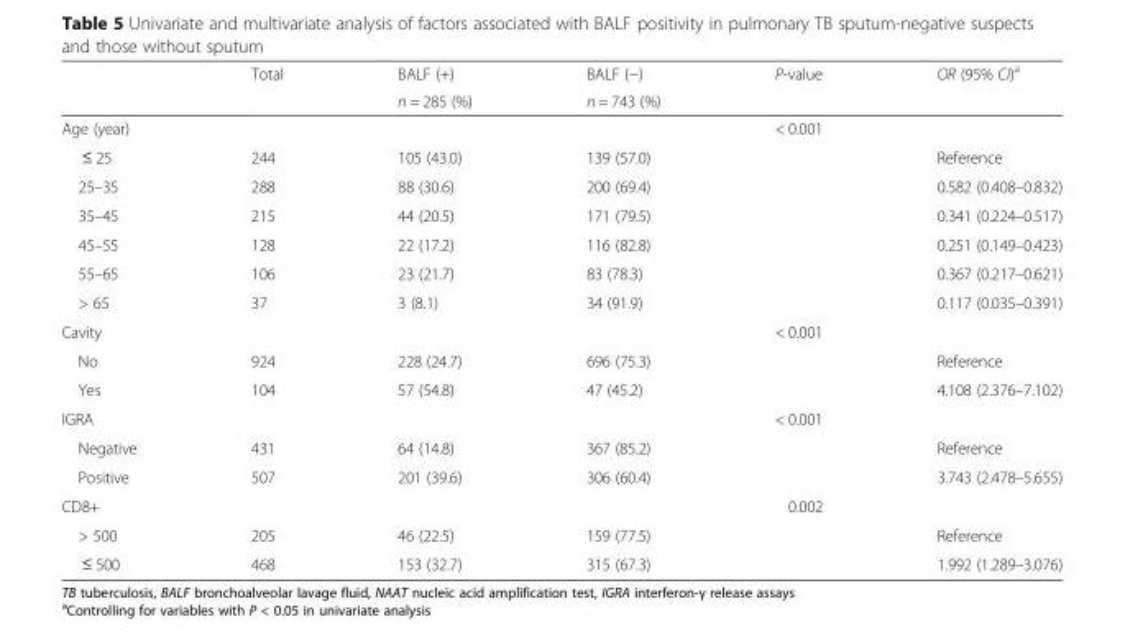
<table><thead><tr><td rowspan="2"></td><td rowspan="2">Total</td><td rowspan="2">BALF (+) n = 285 (%)</td><td rowspan="2">BALF (−) n = 743 (%)</td><td rowspan="2">P-value</td><td rowspan="2">OR (95% CI)<sup>a</sup></td></tr><tr></tr></thead><tbody><tr><td>Age (year)</td><td></td><td></td><td></td><td>&lt; 0.001</td><td></td></tr><tr><td>≤ 25</td><td>244</td><td>105 (43.0)</td><td>139 (57.0)</td><td></td><td>Reference</td></tr><tr><td>25–35</td><td>288</td><td>88 (30.6)</td><td>200 (69.4)</td><td></td><td>0.582 (0.408–0.832)</td></tr><tr><td>35–45</td><td>215</td><td>44 (20.5)</td><td>171 (79.5)</td><td></td><td>0.341 (0.224–0.517)</td></tr><tr><td>45–55</td><td>128</td><td>22 (17.2)</td><td>116 (82.8)</td><td></td><td>0.251 (0.149–0.423)</td></tr><tr><td>55–65</td><td>106</td><td>23 (21.7)</td><td>83 (78.3)</td><td></td><td>0.367 (0.217–0.621)</td></tr><tr><td>&gt; 65</td><td>37</td><td>3 (8.1)</td><td>34 (91.9)</td><td></td><td>0.117 (0.035–0.391)</td></tr><tr><td>Cavity</td><td></td><td></td><td></td><td>&lt; 0.001</td><td></td></tr><tr><td>No</td><td>924</td><td>228 (24.7)</td><td>696 (75.3)</td><td></td><td>Reference</td></tr><tr><td>Yes</td><td>104</td><td>57 (54.8)</td><td>47 (45.2)</td><td></td><td>4.108 (2.376–7.102)</td></tr><tr><td>IGRA</td><td></td><td></td><td></td><td>&lt; 0.001</td><td></td></tr><tr><td>Negative</td><td>431</td><td>64 (14.8)</td><td>367 (85.2)</td><td></td><td>Reference</td></tr><tr><td>Positive</td><td>507</td><td>201 (39.6)</td><td>306 (60.4)</td><td></td><td>3.743 (2.478–5.655)</td></tr><tr><td>CD8+</td><td></td><td></td><td></td><td>0.002</td><td></td></tr><tr><td>&gt; 500</td><td>205</td><td>46 (22.5)</td><td>159 (77.5)</td><td></td><td>Reference</td></tr><tr><td>≤ 500</td><td>468</td><td>153 (32.7)</td><td>315 (67.3)</td><td></td><td>1.992 (1.289–3.076)</td></tr></tbody></table>